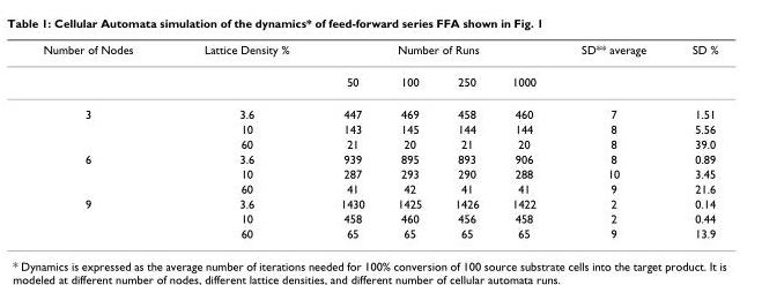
<table><thead><tr><td rowspan="2">Number of Nodes</td><td rowspan="2">Lattice Density %</td><td colspan="4">Number of Runs</td><td rowspan="2">SD** average</td><td rowspan="2">SD %</td></tr><tr><td>50</td><td>100</td><td>250</td><td>1000</td></tr></thead><tbody><tr><td rowspan="3">3</td><td>3.6</td><td>447</td><td>469</td><td>458</td><td>460</td><td>7</td><td>1.51</td></tr><tr><td>10</td><td>143</td><td>145</td><td>144</td><td>144</td><td>8</td><td>5.56</td></tr><tr><td>60</td><td>21</td><td>20</td><td>21</td><td>20</td><td>8</td><td>39.0</td></tr><tr><td rowspan="3">6</td><td>3.6</td><td>939</td><td>895</td><td>893</td><td>906</td><td>8</td><td>0.89</td></tr><tr><td>10</td><td>287</td><td>293</td><td>290</td><td>288</td><td>10</td><td>3.45</td></tr><tr><td>60</td><td>41</td><td>42</td><td>41</td><td>41</td><td>9</td><td>21.6</td></tr><tr><td rowspan="3">9</td><td>3.6</td><td>1430</td><td>1425</td><td>1426</td><td>1422</td><td>2</td><td>0.14</td></tr><tr><td>10</td><td>458</td><td>460</td><td>456</td><td>458</td><td>2</td><td>0.44</td></tr><tr><td>60</td><td>65</td><td>65</td><td>65</td><td>65</td><td>9</td><td>13.9</td></tr></tbody></table>